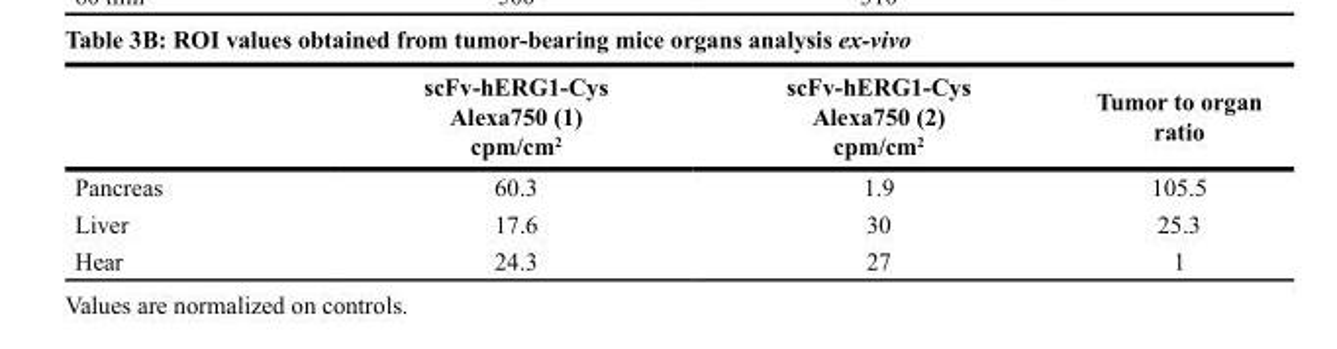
<table><thead><tr><td></td><td>scFv-hERG1-Cys Alexa750 (1) cpm/cm<sup>2</sup></td><td>scFv-hERG1-Cys Alexa750 (2) cpm/cm<sup>2</sup></td><td>Tumor to organ ratio</td></tr></thead><tbody><tr><td>Pancreas</td><td>60.3</td><td>1.9</td><td>105.5</td></tr><tr><td>Liver</td><td>17.6</td><td>30</td><td>25.3</td></tr><tr><td>Hear</td><td>24.3</td><td>27</td><td>1</td></tr></tbody></table>